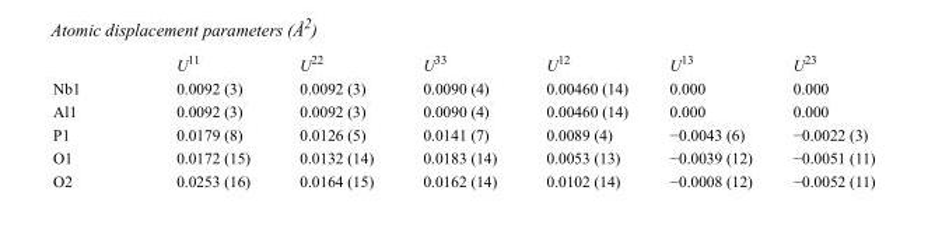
<table><thead><tr><td></td><td>U<sup>11</sup></td><td>U<sup>22</sup></td><td>U<sup>33</sup></td><td>U<sup>12</sup></td><td>U<sup>13</sup></td><td>U<sup>23</sup></td></tr></thead><tbody><tr><td>Nb1</td><td>0.0092 (3)</td><td>0.0092 (3)</td><td>0.0090 (4)</td><td>0.00460 (14)</td><td>0.000</td><td>0.000</td></tr><tr><td>Al1</td><td>0.0092 (3)</td><td>0.0092 (3)</td><td>0.0090 (4)</td><td>0.00460 (14)</td><td>0.000</td><td>0.000</td></tr><tr><td>P1</td><td>0.0179 (8)</td><td>0.0126 (5)</td><td>0.0141 (7)</td><td>0.0089 (4)</td><td>−0.0043 (6)</td><td>−0.0022 (3)</td></tr><tr><td>O1</td><td>0.0172 (15)</td><td>0.0132 (14)</td><td>0.0183 (14)</td><td>0.0053 (13)</td><td>−0.0039 (12)</td><td>−0.0051 (11)</td></tr><tr><td>O2</td><td>0.0253 (16)</td><td>0.0164 (15)</td><td>0.0162 (14)</td><td>0.0102 (14)</td><td>−0.0008 (12)</td><td>−0.0052 (11)</td></tr></tbody></table>